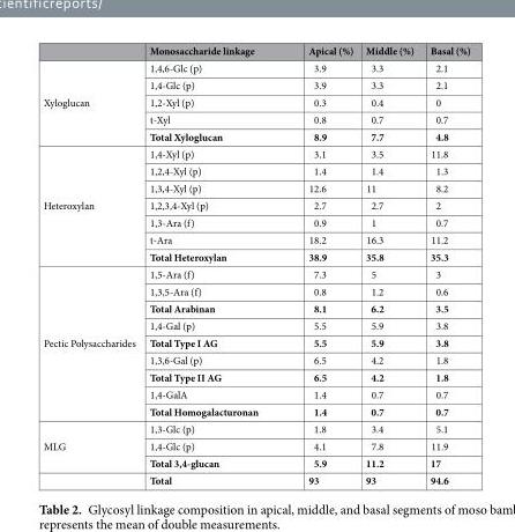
<table><thead><tr><td></td><td>Monosaccharide linkage</td><td>Apical (%)</td><td>Middle (%)</td><td>Basal (%)</td></tr></thead><tbody><tr><td rowspan="5">Xyloglucan</td><td>1,4,6-Glc (p)</td><td>3.9</td><td>3.3</td><td>2.1</td></tr><tr><td>1,4-Glc (p)</td><td>3.9</td><td>3.3</td><td>2.1</td></tr><tr><td>1,2-Xyl (p)</td><td>0.3</td><td>0.4</td><td>0</td></tr><tr><td>t-Xyl</td><td>0.8</td><td>0.7</td><td>0.7</td></tr><tr><td>Total Xyloglucan</td><td>8.9</td><td>7.7</td><td>4.8</td></tr><tr><td rowspan="7">Heteroxylan</td><td>1,4-Xyl (p)</td><td>3.1</td><td>3.5</td><td>11.8</td></tr><tr><td>1,2,4-Xyl (p)</td><td>1.4</td><td>1.4</td><td>1.3</td></tr><tr><td>1,3,4-Xyl (p)</td><td>12.6</td><td>11</td><td>8.2</td></tr><tr><td>1,2,3,4-Xyl (p)</td><td>2.7</td><td>2.7</td><td>2</td></tr><tr><td>1,3-Ara (f)</td><td>0.9</td><td>1</td><td>0.7</td></tr><tr><td>t-Ara</td><td>18.2</td><td>16.3</td><td>11.2</td></tr><tr><td>Total Heteroxylan</td><td>38.9</td><td>35.8</td><td>35.3</td></tr><tr><td rowspan="9">Pectic Polysaccharides</td><td>1,5-Ara (f)</td><td>7.3</td><td>5</td><td>3</td></tr><tr><td>1,3,5-Ara (f)</td><td>0.8</td><td>1.2</td><td>0.6</td></tr><tr><td>Total Arabinan</td><td>8.1</td><td>6.2</td><td>3.5</td></tr><tr><td>1,4-Gal (p)</td><td>5.5</td><td>5.9</td><td>3.8</td></tr><tr><td>Total Type I AG</td><td>5.5</td><td>5.9</td><td>3.8</td></tr><tr><td>1,3,6-Gal (p)</td><td>6.5</td><td>4.2</td><td>1.8</td></tr><tr><td>Total Type II AG</td><td>6.5</td><td>4.2</td><td>1.8</td></tr><tr><td>1,4-GalA</td><td>1.4</td><td>0.7</td><td>0.7</td></tr><tr><td>Total Homogalacturonan</td><td>1.4</td><td>0.7</td><td>0.7</td></tr><tr><td rowspan="4">MLG</td><td>1,3-Glc (p)</td><td>1.8</td><td>3.4</td><td>5.1</td></tr><tr><td>1,4-Glc (p)</td><td>4.1</td><td>7.8</td><td>11.9</td></tr><tr><td>Total 3,4-glucan</td><td>5.9</td><td>11.2</td><td>17</td></tr><tr><td>Total</td><td>93</td><td>93</td><td>94.6</td></tr></tbody></table>